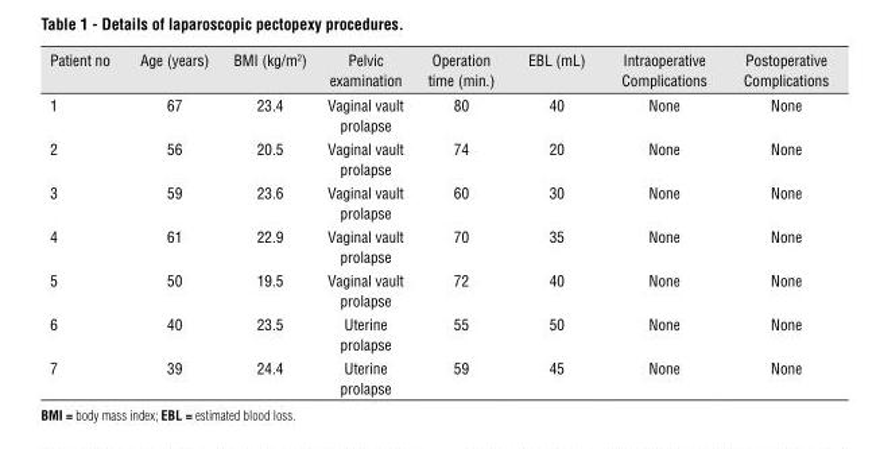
<table><thead><tr><td>Patient no</td><td>Age (years)</td><td>BMI (kg/m<sup>2</sup>)</td><td>Pelvic examination</td><td>Operation time (min.)</td><td>EBL (mL)</td><td>Intraoperative Complications</td><td>Postoperative Complications</td></tr></thead><tbody><tr><td>1</td><td>67</td><td>23.4</td><td>Vaginal vault prolapse</td><td>80</td><td>40</td><td>None</td><td>None</td></tr><tr><td>2</td><td>56</td><td>20.5</td><td>Vaginal vault prolapse</td><td>74</td><td>20</td><td>None</td><td>None</td></tr><tr><td>3</td><td>59</td><td>23.6</td><td>Vaginal vault prolapse</td><td>60</td><td>30</td><td>None</td><td>None</td></tr><tr><td>4</td><td>61</td><td>22.9</td><td>Vaginal vault prolapse</td><td>70</td><td>35</td><td>None</td><td>None</td></tr><tr><td>5</td><td>50</td><td>19.5</td><td>Vaginal vault prolapse</td><td>72</td><td>40</td><td>None</td><td>None</td></tr><tr><td>6</td><td>40</td><td>23.5</td><td>Uterine prolapse</td><td>55</td><td>50</td><td>None</td><td>None</td></tr><tr><td>7</td><td>39</td><td>24.4</td><td>Uterine prolapse</td><td>59</td><td>45</td><td>None</td><td>None</td></tr></tbody></table>